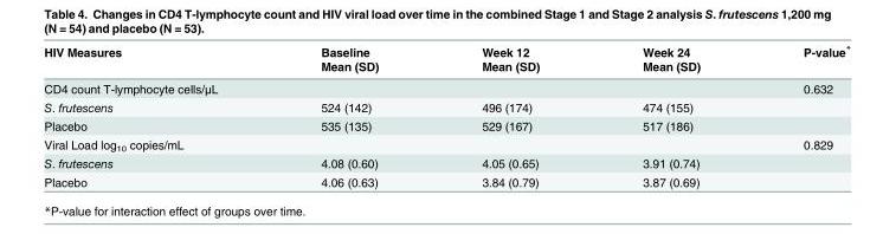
<table><thead><tr><td rowspan="2">HIV Measures</td><td rowspan="2">Baseline Mean (SD)</td><td rowspan="2">Week 12 Mean (SD)</td><td rowspan="2">Week 24 Mean (SD)</td><td rowspan="2">P-value*</td></tr><tr></tr></thead><tbody><tr><td>CD4 count T-lymphocyte cells/μL</td><td></td><td></td><td></td><td>0.632</td></tr><tr><td>S. frutescens</td><td>524 (142)</td><td>496 (174)</td><td>474 (155)</td><td></td></tr><tr><td>Placebo</td><td>535 (135)</td><td>529 (167)</td><td>517 (186)</td><td></td></tr><tr><td>Viral Load log<sub>10</sub> copies/mL</td><td></td><td></td><td></td><td>0.829</td></tr><tr><td>S. frutescens</td><td>4.08 (0.60)</td><td>4.05 (0.65)</td><td>3.91 (0.74)</td><td></td></tr><tr><td>Placebo</td><td>4.06 (0.63)</td><td>3.84 (0.79)</td><td>3.87 (0.69)</td><td></td></tr></tbody></table>